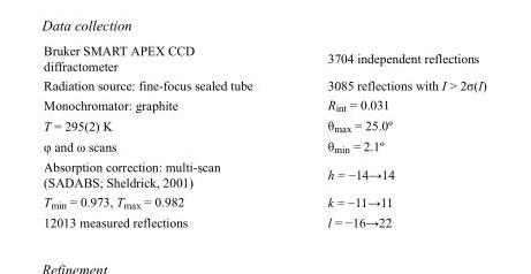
<table><tbody><tr><td>Bruker SMART APEX CCD diffractometer</td><td>3704 independent reflections</td></tr><tr><td>Radiation source: fine-focus sealed tube</td><td>3085 reflections with I &gt; 2σ(I)</td></tr><tr><td>Monochromator: graphite</td><td>R<sub>int</sub> = 0.031</td></tr><tr><td>T = 295(2) K</td><td>θ<sub>max</sub> = 25.0º</td></tr><tr><td>φ and ω scans</td><td>θ<sub>min</sub> = 2.1º</td></tr><tr><td>Absorption correction: multi-scan (SADABS; Sheldrick, 2001)</td><td>h = −14→14</td></tr><tr><td>T<sub>min</sub> = 0.973, T<sub>max</sub> = 0.982</td><td>k = −11→11</td></tr><tr><td>12013 measured reflections</td><td>l = −16→22</td></tr></tbody></table>